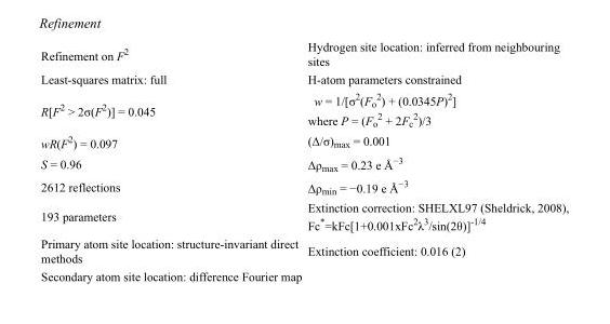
<table><tbody><tr><td>Refinement on F<sup>2</sup></td><td>Hydrogen site location: inferred from neighbouring sites</td></tr><tr><td>Least-squares matrix: full</td><td>H-atom parameters constrained</td></tr><tr><td>R[F<sup>2</sup> &gt; 2σ(F<sup>2</sup>)] = 0.045</td><td>w = 1/[σ<sup>2</sup>(F<sub>o</sub> <sup>2</sup>) + (0.0345P)<sup>2</sup>] where P = (F<sub>o</sub> <sup>2</sup> + 2F<sub>c</sub> <sup>2</sup>)/3</td></tr><tr><td>wR(F<sup>2</sup>) = 0.097</td><td>(Δ/σ)<sub>max</sub> = 0.001</td></tr><tr><td>S = 0.96</td><td>Δρ<sub>max</sub> = 0.23 e Å<sup>−3</sup></td></tr><tr><td>2612 reflections</td><td>Δρ<sub>min</sub> = −0.19 e Å<sup>−3</sup></td></tr><tr><td>193 parameters</td><td>Extinction correction: SHELXL97 (Sheldrick, 2008), Fc*=kFc[1+0.001xFc<sup>2</sup>λ<sup>3</sup>/sin(2θ)]<sup>-1/4</sup></td></tr><tr><td>Primary atom site location: structure-invariant direct methods</td><td>Extinction coefficient: 0.016 (2)</td></tr><tr><td>Secondary atom site location: difference Fourier map</td><td></td></tr></tbody></table>